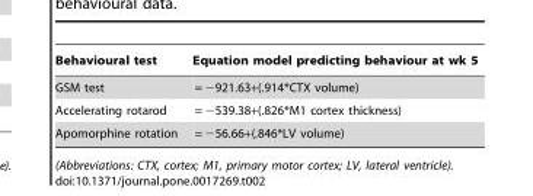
<table><thead><tr><td>Behavioural test</td><td>Equation model predicting behaviour at wk 5</td></tr></thead><tbody><tr><td>GSM test</td><td>= −921.63+(.914*CTX volume)</td></tr><tr><td>Accelerating rotarod</td><td>= −539.38+(.826*M1 cortex thickness)</td></tr><tr><td>Apomorphine rotation</td><td>= −56.66+(.846*LV volume)</td></tr></tbody></table>